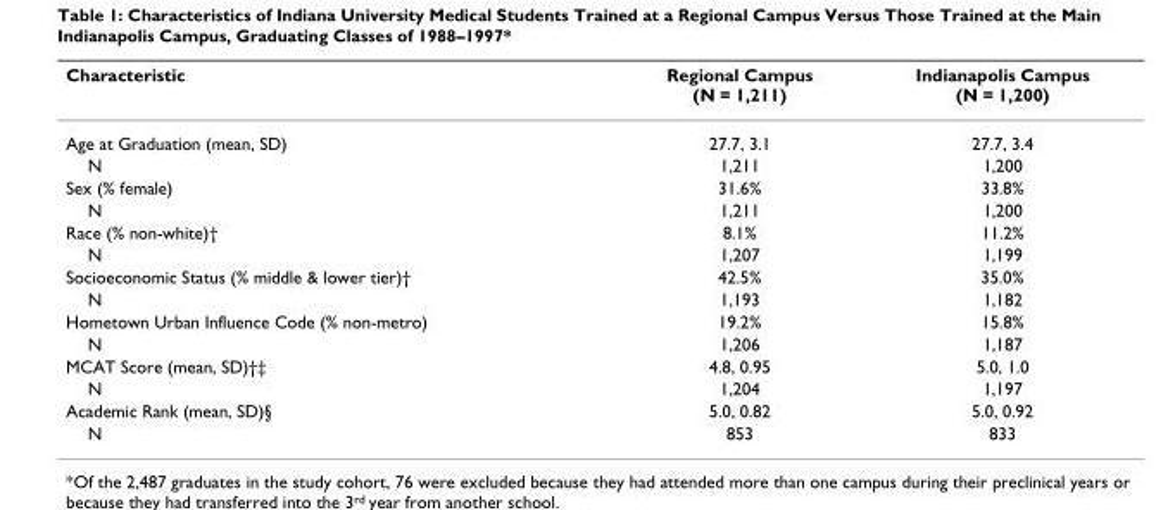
<table><thead><tr><td>Characteristic</td><td>Regional Campus (N = 1,211)</td><td>Indianapolis Campus (N = 1,200)</td></tr></thead><tbody><tr><td>Age at Graduation (mean, SD)</td><td>27.7, 3.1</td><td>27.7, 3.4</td></tr><tr><td>N</td><td>1,211</td><td>1,200</td></tr><tr><td>Sex (% female)</td><td>31.6%</td><td>33.8%</td></tr><tr><td>N</td><td>1,211</td><td>1,200</td></tr><tr><td>Race (% non-white)†</td><td>8.1%</td><td>11.2%</td></tr><tr><td>N</td><td>1,207</td><td>1,199</td></tr><tr><td>Socioeconomic Status (% middle &amp; lower tier)†</td><td>42.5%</td><td>35.0%</td></tr><tr><td>N</td><td>1,193</td><td>1,182</td></tr><tr><td>Hometown Urban Influence Code (% non-metro)</td><td>19.2%</td><td>15.8%</td></tr><tr><td>N</td><td>1,206</td><td>1,187</td></tr><tr><td>MCAT Score (mean, SD)†‡</td><td>4.8, 0.95</td><td>5.0, 1.0</td></tr><tr><td>N</td><td>1,204</td><td>1,197</td></tr><tr><td>Academic Rank (mean, SD)§</td><td>5.0, 0.82</td><td>5.0, 0.92</td></tr><tr><td>N</td><td>853</td><td>833</td></tr></tbody></table>